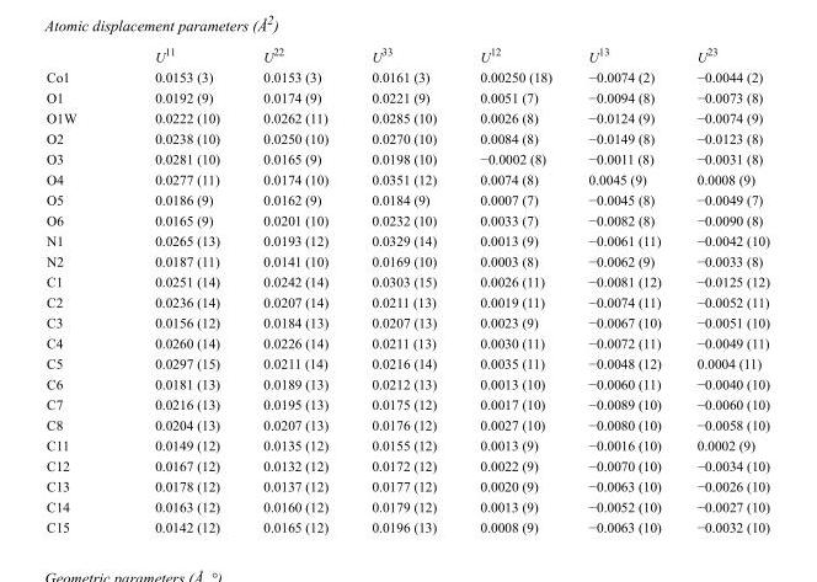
<table><thead><tr><td></td><td>U<sup>11</sup></td><td>U<sup>22</sup></td><td>U<sup>33</sup></td><td>U<sup>12</sup></td><td>U<sup>13</sup></td><td>U<sup>23</sup></td></tr></thead><tbody><tr><td>Co1</td><td>0.0153 (3)</td><td>0.0153 (3)</td><td>0.0161 (3)</td><td>0.00250 (18)</td><td>−0.0074 (2)</td><td>−0.0044 (2)</td></tr><tr><td>O1</td><td>0.0192 (9)</td><td>0.0174 (9)</td><td>0.0221 (9)</td><td>0.0051 (7)</td><td>−0.0094 (8)</td><td>−0.0073 (8)</td></tr><tr><td>O1W</td><td>0.0222 (10)</td><td>0.0262 (11)</td><td>0.0285 (10)</td><td>0.0026 (8)</td><td>−0.0124 (9)</td><td>−0.0074 (9)</td></tr><tr><td>O2</td><td>0.0238 (10)</td><td>0.0250 (10)</td><td>0.0270 (10)</td><td>0.0084 (8)</td><td>−0.0149 (8)</td><td>−0.0123 (8)</td></tr><tr><td>O3</td><td>0.0281 (10)</td><td>0.0165 (9)</td><td>0.0198 (10)</td><td>−0.0002 (8)</td><td>−0.0011 (8)</td><td>−0.0031 (8)</td></tr><tr><td>O4</td><td>0.0277 (11)</td><td>0.0174 (10)</td><td>0.0351 (12)</td><td>0.0074 (8)</td><td>0.0045 (9)</td><td>0.0008 (9)</td></tr><tr><td>O5</td><td>0.0186 (9)</td><td>0.0162 (9)</td><td>0.0184 (9)</td><td>0.0007 (7)</td><td>−0.0045 (8)</td><td>−0.0049 (7)</td></tr><tr><td>O6</td><td>0.0165 (9)</td><td>0.0201 (10)</td><td>0.0232 (10)</td><td>0.0033 (7)</td><td>−0.0082 (8)</td><td>−0.0090 (8)</td></tr><tr><td>N1</td><td>0.0265 (13)</td><td>0.0193 (12)</td><td>0.0329 (14)</td><td>0.0013 (9)</td><td>−0.0061 (11)</td><td>−0.0042 (10)</td></tr><tr><td>N2</td><td>0.0187 (11)</td><td>0.0141 (10)</td><td>0.0169 (10)</td><td>0.0003 (8)</td><td>−0.0062 (9)</td><td>−0.0033 (8)</td></tr><tr><td>C1</td><td>0.0251 (14)</td><td>0.0242 (14)</td><td>0.0303 (15)</td><td>0.0026 (11)</td><td>−0.0081 (12)</td><td>−0.0125 (12)</td></tr><tr><td>C2</td><td>0.0236 (14)</td><td>0.0207 (14)</td><td>0.0211 (13)</td><td>0.0019 (11)</td><td>−0.0074 (11)</td><td>−0.0052 (11)</td></tr><tr><td>C3</td><td>0.0156 (12)</td><td>0.0184 (13)</td><td>0.0207 (13)</td><td>0.0023 (9)</td><td>−0.0067 (10)</td><td>−0.0051 (10)</td></tr><tr><td>C4</td><td>0.0260 (14)</td><td>0.0226 (14)</td><td>0.0211 (13)</td><td>0.0030 (11)</td><td>−0.0072 (11)</td><td>−0.0049 (11)</td></tr><tr><td>C5</td><td>0.0297 (15)</td><td>0.0211 (14)</td><td>0.0216 (14)</td><td>0.0035 (11)</td><td>−0.0048 (12)</td><td>0.0004 (11)</td></tr><tr><td>C6</td><td>0.0181 (13)</td><td>0.0189 (13)</td><td>0.0212 (13)</td><td>0.0013 (10)</td><td>−0.0060 (11)</td><td>−0.0040 (10)</td></tr><tr><td>C7</td><td>0.0216 (13)</td><td>0.0195 (13)</td><td>0.0175 (12)</td><td>0.0017 (10)</td><td>−0.0089 (10)</td><td>−0.0060 (10)</td></tr><tr><td>C8</td><td>0.0204 (13)</td><td>0.0207 (13)</td><td>0.0176 (12)</td><td>0.0027 (10)</td><td>−0.0080 (10)</td><td>−0.0058 (10)</td></tr><tr><td>C11</td><td>0.0149 (12)</td><td>0.0135 (12)</td><td>0.0155 (12)</td><td>0.0013 (9)</td><td>−0.0016 (10)</td><td>0.0002 (9)</td></tr><tr><td>C12</td><td>0.0167 (12)</td><td>0.0132 (12)</td><td>0.0172 (12)</td><td>0.0022 (9)</td><td>−0.0070 (10)</td><td>−0.0034 (10)</td></tr><tr><td>C13</td><td>0.0178 (12)</td><td>0.0137 (12)</td><td>0.0177 (12)</td><td>0.0020 (9)</td><td>−0.0063 (10)</td><td>−0.0026 (10)</td></tr><tr><td>C14</td><td>0.0163 (12)</td><td>0.0160 (12)</td><td>0.0179 (12)</td><td>0.0013 (9)</td><td>−0.0052 (10)</td><td>−0.0027 (10)</td></tr><tr><td>C15</td><td>0.0142 (12)</td><td>0.0165 (12)</td><td>0.0196 (13)</td><td>0.0008 (9)</td><td>−0.0063 (10)</td><td>−0.0032 (10)</td></tr></tbody></table>